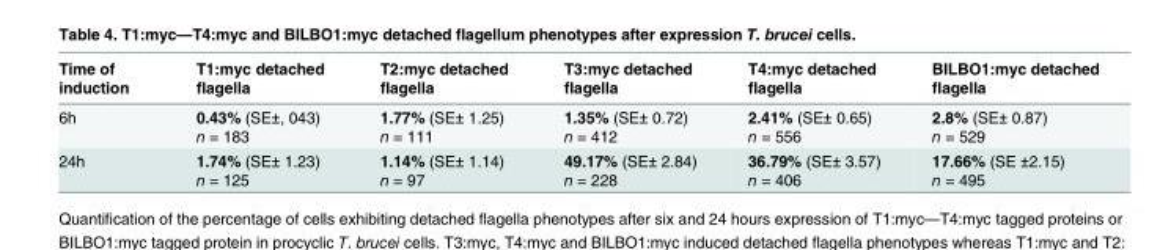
<table><thead><tr><td>Time of induction</td><td>T1:myc detached flagella</td><td>T2:myc detached flagella</td><td>T3:myc detached flagella</td><td>T4:myc detached flagella</td><td>BILBO1:myc detached flagella</td></tr></thead><tbody><tr><td>6h</td><td>0.43% (SE±, 043) n = 183</td><td>1.77% (SE± 1.25) n = 111</td><td>1.35% (SE± 0.72) n = 412</td><td>2.41% (SE± 0.65) n = 556</td><td>2.8% (SE± 0.87) n = 529</td></tr><tr><td>24h</td><td>1.74% (SE± 1.23) n = 125</td><td>1.14% (SE± 1.14) n = 97</td><td>49.17% (SE± 2.84) n = 228</td><td>36.79% (SE± 3.57) n = 406</td><td>17.66% (SE ±2.15) n = 495</td></tr></tbody></table>